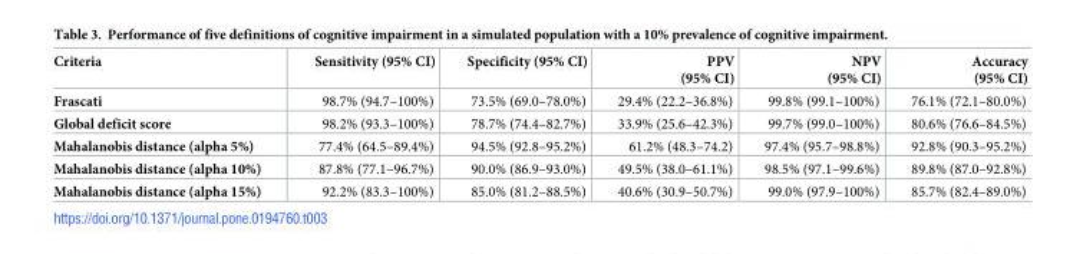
<table><thead><tr><td>Criteria</td><td>Sensitivity (95% CI)</td><td>Specificity (95% CI)</td><td>PPV (95% CI)</td><td>NPV (95% CI)</td><td>Accuracy (95% CI)</td></tr></thead><tbody><tr><td>Frascati</td><td>98.7% (94.7–100%)</td><td>73.5% (69.0–78.0%)</td><td>29.4% (22.2–36.8%)</td><td>99.8% (99.1–100%)</td><td>76.1% (72.1–80.0%)</td></tr><tr><td>Global deficit score</td><td>98.2% (93.3–100%)</td><td>78.7% (74.4–82.7%)</td><td>33.9% (25.6–42.3%)</td><td>99.7% (99.0–100%)</td><td>80.6% (76.6–84.5%)</td></tr><tr><td>Mahalanobis distance (alpha 5%)</td><td>77.4% (64.5–89.4%)</td><td>94.5% (92.8–95.2%)</td><td>61.2% (48.3–74.2)</td><td>97.4% (95.7–98.8%)</td><td>92.8% (90.3–95.2%)</td></tr><tr><td>Mahalanobis distance (alpha 10%)</td><td>87.8% (77.1–96.7%)</td><td>90.0% (86.9–93.0%)</td><td>49.5% (38.0–61.1%)</td><td>98.5% (97.1–99.6%)</td><td>89.8% (87.0–92.8%)</td></tr><tr><td>Mahalanobis distance (alpha 15%)</td><td>92.2% (83.3–100%)</td><td>85.0% (81.2–88.5%)</td><td>40.6% (30.9–50.7%)</td><td>99.0% (97.9–100%)</td><td>85.7% (82.4–89.0%)</td></tr></tbody></table>